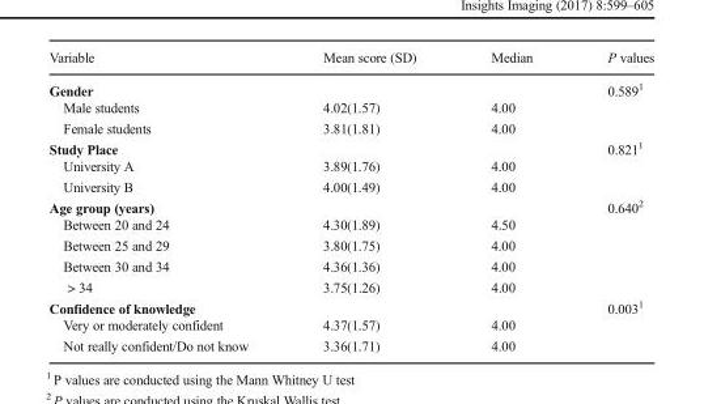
<table><thead><tr><td>Variable</td><td>Mean score (SD)</td><td>Median</td><td>P values</td></tr></thead><tbody><tr><td colspan="3">Gender</td><td rowspan="3">0.589<sup>1</sup></td></tr><tr><td>Male students</td><td>4.02(1.57)</td><td>4.00</td></tr><tr><td>Female students</td><td>3.81(1.81)</td><td>4.00</td></tr><tr><td colspan="3">Study Place</td><td rowspan="3">0.821<sup>1</sup></td></tr><tr><td>University A</td><td>3.89(1.76)</td><td>4.00</td></tr><tr><td>University B</td><td>4.00(1.49)</td><td>4.00</td></tr><tr><td colspan="3">Age group (years)</td><td rowspan="5">0.640<sup>2</sup></td></tr><tr><td>Between 20 and 24</td><td>4.30(1.89)</td><td>4.50</td></tr><tr><td>Between 25 and 29</td><td>3.80(1.75)</td><td>4.00</td></tr><tr><td>Between 30 and 34</td><td>4.36(1.36)</td><td>4.00</td></tr><tr><td>&gt; 34</td><td>3.75(1.26)</td><td>4.00</td></tr><tr><td colspan="3">Confidence of knowledge</td><td rowspan="3">0.003<sup>1</sup></td></tr><tr><td>Very or moderately confident</td><td>4.37(1.57)</td><td>4.00</td></tr><tr><td>Not really confident/Do not know</td><td>3.36(1.71)</td><td>4.00</td></tr></tbody></table>